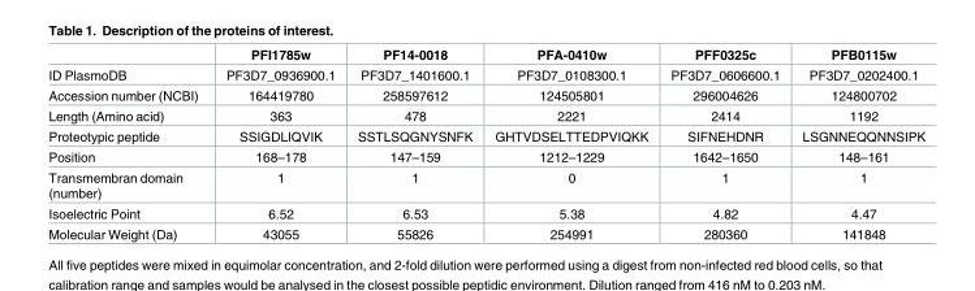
<table><thead><tr><td></td><td>PFI1785w</td><td>PF14-0018</td><td>PFA-0410w</td><td>PFF0325c</td><td>PFB0115w</td></tr></thead><tbody><tr><td>ID PlasmoDB</td><td>PF3D7_0936900.1</td><td>PF3D7_1401600.1</td><td>PF3D7_0108300.1</td><td>PF3D7_0606600.1</td><td>PF3D7_0202400.1</td></tr><tr><td>Accession number (NCBI)</td><td>164419780</td><td>258597612</td><td>124505801</td><td>296004626</td><td>124800702</td></tr><tr><td>Length (Amino acid)</td><td>363</td><td>478</td><td>2221</td><td>2414</td><td>1192</td></tr><tr><td>Proteotypic peptide</td><td>SSIGDLIQVIK</td><td>SSTLSQGNYSNFK</td><td>GHTVDSELTTEDPVIQKK</td><td>SIFNEHDNR</td><td>LSGNNEQQNNSIPK</td></tr><tr><td>Position</td><td>168–178</td><td>147–159</td><td>1212–1229</td><td>1642–1650</td><td>148–161</td></tr><tr><td>Transmembran domain (number)</td><td>1</td><td>1</td><td>0</td><td>1</td><td>1</td></tr><tr><td>Isoelectric Point</td><td>6.52</td><td>6.53</td><td>5.38</td><td>4.82</td><td>4.47</td></tr><tr><td>Molecular Weight (Da)</td><td>43055</td><td>55826</td><td>254991</td><td>280360</td><td>141848</td></tr></tbody></table>